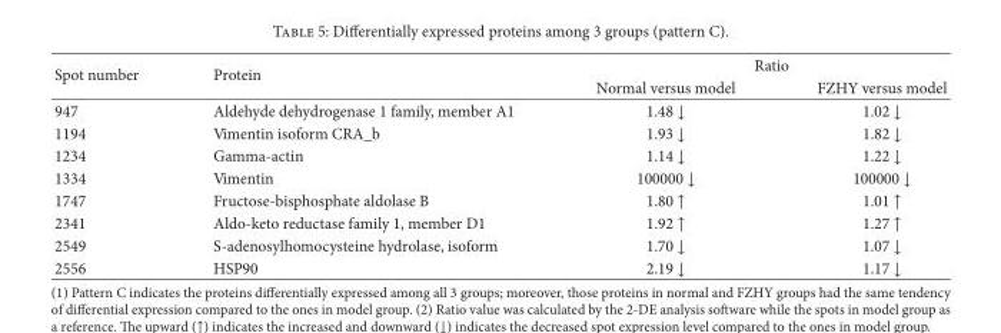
<table><thead><tr><td rowspan="2">Spot number</td><td rowspan="2">Protein</td><td colspan="2">Ratio</td></tr><tr><td>Normal versus model</td><td>FZHY versus model</td></tr></thead><tbody><tr><td>947</td><td>Aldehyde dehydrogenase 1 family, member A1</td><td>1.48 ↓</td><td>1.02 ↓</td></tr><tr><td>1194</td><td>Vimentin isoform CRA_b</td><td>1.93 ↓</td><td>1.82 ↓</td></tr><tr><td>1234</td><td>Gamma-actin</td><td>1.14 ↓</td><td>1.22 ↓</td></tr><tr><td>1334</td><td>Vimentin</td><td>100000 ↓</td><td>100000 ↓</td></tr><tr><td>1747</td><td>Fructose-bisphosphate aldolase B</td><td>1.80 ↑</td><td>1.01 ↑</td></tr><tr><td>2341</td><td>Aldo-keto reductase family 1, member D1</td><td>1.92 ↑</td><td>1.27 ↑</td></tr><tr><td>2549</td><td>S-adenosylhomocysteine hydrolase, isoform</td><td>1.70 ↓</td><td>1.07 ↓</td></tr><tr><td>2556</td><td>HSP90</td><td>2.19 ↓</td><td>1.17 ↓</td></tr></tbody></table>